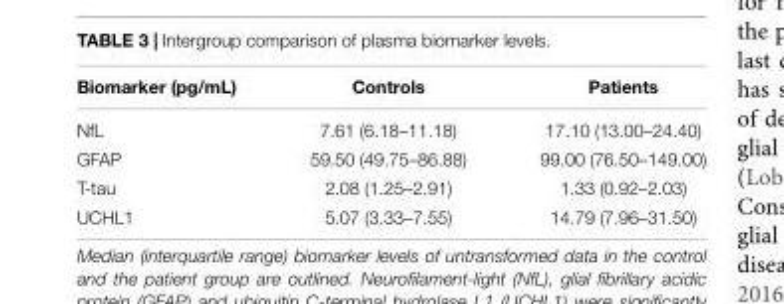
<table><thead><tr><td>Biomarker (pg/mL)</td><td>Controls</td><td>Patients</td></tr></thead><tbody><tr><td>NfL</td><td>7.61 (6.18–11.18)</td><td>17.10 (13.00–24.40)</td></tr><tr><td>GFAP</td><td>59.50 (49.75–86.88)</td><td>99.00 (76.50–149.00)</td></tr><tr><td>T-tau</td><td>2.08 (1.25–2.91)</td><td>1.33 (0.92–2.03)</td></tr><tr><td>UCHL1</td><td>5.07 (3.33–7.55)</td><td>14.79 (7.96–31.50)</td></tr></tbody></table>